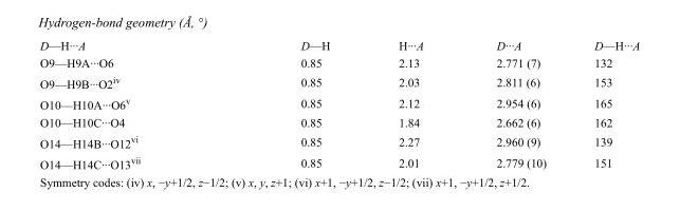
<table><tbody><tr><td>D—H···A</td><td>D—H</td><td>H···A</td><td>D···A</td><td>D—H···A</td></tr><tr><td>O9—H9A···O6</td><td>0.85</td><td>2.13</td><td>2.771 (7)</td><td>132</td></tr><tr><td>O9—H9B···O2<sup>iv</sup></td><td>0.85</td><td>2.03</td><td>2.811 (6)</td><td>153</td></tr><tr><td>O10—H10A···O6<sup>v</sup></td><td>0.85</td><td>2.12</td><td>2.954 (6)</td><td>165</td></tr><tr><td>O10—H10C···O4</td><td>0.85</td><td>1.84</td><td>2.662 (6)</td><td>162</td></tr><tr><td>O14—H14B···O12<sup>vi</sup></td><td>0.85</td><td>2.27</td><td>2.960 (9)</td><td>139</td></tr><tr><td>O14—H14C···O13<sup>vii</sup></td><td>0.85</td><td>2.01</td><td>2.779 (10)</td><td>151</td></tr></tbody></table>